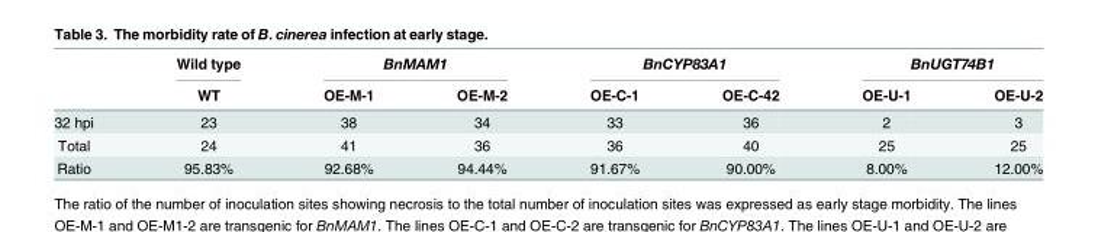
<table><thead><tr><td rowspan="2"></td><td rowspan="2">Wild type WT</td><td colspan="2">BnMAM1</td><td colspan="2">BnCYP83A1</td><td colspan="2">BnUGT74B1</td></tr><tr><td>OE-M-1</td><td>OE-M-2</td><td>OE-C-1</td><td>OE-C-42</td><td>OE-U-1</td><td>OE-U-2</td></tr></thead><tbody><tr><td>32 hpi</td><td>23</td><td>38</td><td>34</td><td>33</td><td>36</td><td>2</td><td>3</td></tr><tr><td>Total</td><td>24</td><td>41</td><td>36</td><td>36</td><td>40</td><td>25</td><td>25</td></tr><tr><td>Ratio</td><td>95.83%</td><td>92.68%</td><td>94.44%</td><td>91.67%</td><td>90.00%</td><td>8.00%</td><td>12.00%</td></tr></tbody></table>